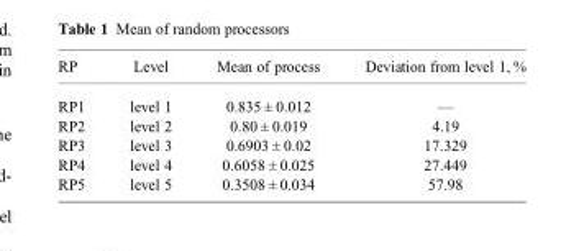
<table><thead><tr><td>RP</td><td>Level</td><td>Mean of process</td><td>Deviation from level 1, %</td></tr></thead><tbody><tr><td>RP1</td><td>level 1</td><td>0.835 ± 0.012</td><td>—</td></tr><tr><td>RP2</td><td>level 2</td><td>0.80 ± 0.019</td><td>4.19</td></tr><tr><td>RP3</td><td>level 3</td><td>0.6903 ± 0.02</td><td>17.329</td></tr><tr><td>RP4</td><td>level 4</td><td>0.6058 ± 0.025</td><td>27.449</td></tr><tr><td>RP5</td><td>level 5</td><td>0.3508 ± 0.034</td><td>57.98</td></tr></tbody></table>